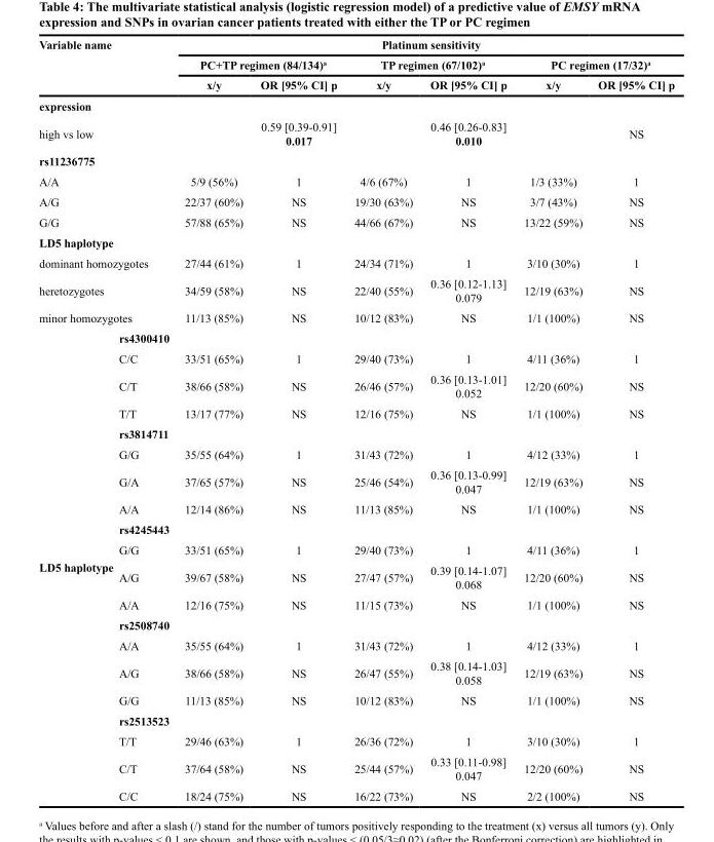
<table><thead><tr><td rowspan="3" colspan="2">Variable name</td><td colspan="6">Platinum sensitivity</td></tr><tr><td colspan="2">PC+TP regimen (84/134)<sup>a</sup></td><td colspan="2">TP regimen (67/102)<sup>a</sup></td><td colspan="2">PC regimen (17/32)<sup>a</sup></td></tr><tr><td>x/y</td><td>OR [95% CI] p</td><td>x/y</td><td>OR [95% CI] p</td><td>x/y</td><td>OR [95% CI] p</td></tr></thead><tbody><tr><td colspan="8">expression</td></tr><tr><td colspan="2">high vs low</td><td></td><td>0.59 [0.39-0.91] 0.017</td><td></td><td>0.46 [0.26-0.83] 0.010</td><td></td><td>NS</td></tr><tr><td colspan="8">rs11236775</td></tr><tr><td colspan="2">A/A</td><td>5/9 (56%)</td><td>1</td><td>4/6 (67%)</td><td>1</td><td>1/3 (33%)</td><td>1</td></tr><tr><td colspan="2">A/G</td><td>22/37 (60%)</td><td>NS</td><td>19/30 (63%)</td><td>NS</td><td>3/7 (43%)</td><td>NS</td></tr><tr><td colspan="2">G/G</td><td>57/88 (65%)</td><td>NS</td><td>44/66 (67%)</td><td>NS</td><td>13/22 (59%)</td><td>NS</td></tr><tr><td colspan="8">LD5 haplotype</td></tr><tr><td colspan="2">dominant homozygotes</td><td>27/44 (61%)</td><td>1</td><td>24/34 (71%)</td><td>1</td><td>3/10 (30%)</td><td>1</td></tr><tr><td colspan="2">heretozygotes</td><td>34/59 (58%)</td><td>NS</td><td>22/40 (55%)</td><td>0.36 [0.12-1.13] 0.079</td><td>12/19 (63%)</td><td>NS</td></tr><tr><td colspan="2">minor homozygotes</td><td>11/13 (85%)</td><td>NS</td><td>10/12 (83%)</td><td>NS</td><td>1/1 (100%)</td><td>NS</td></tr><tr><td rowspan="20">LD5 haplotype</td><td>rs4300410</td><td></td><td></td><td></td><td></td><td></td><td></td></tr><tr><td>C/C</td><td>33/51 (65%)</td><td>1</td><td>29/40 (73%)</td><td>1</td><td>4/11 (36%)</td><td>1</td></tr><tr><td>C/T</td><td>38/66 (58%)</td><td>NS</td><td>26/46 (57%)</td><td>0.36 [0.13-1.01] 0.052</td><td>12/20 (60%)</td><td>NS</td></tr><tr><td>T/T</td><td>13/17 (77%)</td><td>NS</td><td>12/16 (75%)</td><td>NS</td><td>1/1 (100%)</td><td>NS</td></tr><tr><td>rs3814711</td><td></td><td></td><td></td><td></td><td></td><td></td></tr><tr><td>G/G</td><td>35/55 (64%)</td><td>1</td><td>31/43 (72%)</td><td>1</td><td>4/12 (33%)</td><td>1</td></tr><tr><td>G/A</td><td>37/65 (57%)</td><td>NS</td><td>25/46 (54%)</td><td>0.36 [0.13-0.99] 0.047</td><td>12/19 (63%)</td><td>NS</td></tr><tr><td>A/A</td><td>12/14 (86%)</td><td>NS</td><td>11/13 (85%)</td><td>NS</td><td>1/1 (100%)</td><td>NS</td></tr><tr><td>rs4245443</td><td></td><td></td><td></td><td></td><td></td><td></td></tr><tr><td>G/G</td><td>33/51 (65%)</td><td>1</td><td>29/40 (73%)</td><td>1</td><td>4/11 (36%)</td><td>1</td></tr><tr><td>A/G</td><td>39/67 (58%)</td><td>NS</td><td>27/47 (57%)</td><td>0.39 [0.14-1.07] 0.068</td><td>12/20 (60%)</td><td>NS</td></tr><tr><td>A/A</td><td>12/16 (75%)</td><td>NS</td><td>11/15 (73%)</td><td>NS</td><td>1/1 (100%)</td><td>NS</td></tr><tr><td>rs2508740</td><td></td><td></td><td></td><td></td><td></td><td></td></tr><tr><td>A/A</td><td>35/55 (64%)</td><td>1</td><td>31/43 (72%)</td><td>1</td><td>4/12 (33%)</td><td>1</td></tr><tr><td>A/G</td><td>38/66 (58%)</td><td>NS</td><td>26/47 (55%)</td><td>0.38 [0.14-1.03] 0.058</td><td>12/19 (63%)</td><td>NS</td></tr><tr><td>G/G</td><td>11/13 (85%)</td><td>NS</td><td>10/12 (83%)</td><td>NS</td><td>1/1 (100%)</td><td>NS</td></tr><tr><td>rs2513523</td><td></td><td></td><td></td><td></td><td></td><td></td></tr><tr><td>T/T</td><td>29/46 (63%)</td><td>1</td><td>26/36 (72%)</td><td>1</td><td>3/10 (30%)</td><td>1</td></tr><tr><td>C/T</td><td>37/64 (58%)</td><td>NS</td><td>25/44 (57%)</td><td>0.33 [0.11-0.98] 0.047</td><td>12/20 (60%)</td><td>NS</td></tr><tr><td>C/C</td><td>18/24 (75%)</td><td>NS</td><td>16/22 (73%)</td><td>NS</td><td>2/2 (100%)</td><td>NS</td></tr></tbody></table>